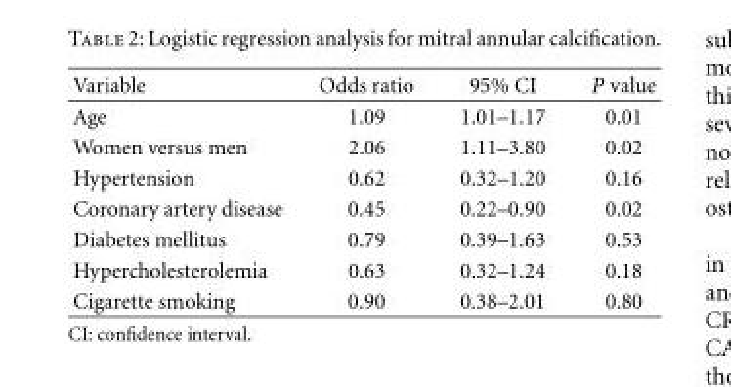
<table><thead><tr><td>Variable</td><td>Odds ratio</td><td>95% CI</td><td>P value</td></tr></thead><tbody><tr><td>Age</td><td>1.09</td><td>1.01–1.17</td><td>0.01</td></tr><tr><td>Women versus men</td><td>2.06</td><td>1.11–3.80</td><td>0.02</td></tr><tr><td>Hypertension</td><td>0.62</td><td>0.32–1.20</td><td>0.16</td></tr><tr><td>Coronary artery disease</td><td>0.45</td><td>0.22–0.90</td><td>0.02</td></tr><tr><td>Diabetes mellitus</td><td>0.79</td><td>0.39–1.63</td><td>0.53</td></tr><tr><td>Hypercholesterolemia</td><td>0.63</td><td>0.32–1.24</td><td>0.18</td></tr><tr><td>Cigarette smoking</td><td>0.90</td><td>0.38–2.01</td><td>0.80</td></tr></tbody></table>